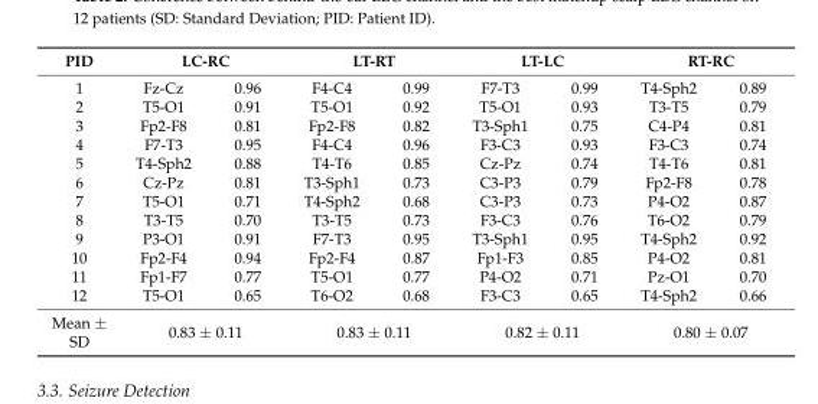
<table><thead><tr><td rowspan="2">PID 1</td><td colspan="2">LC-RC</td><td colspan="2">LT-RT</td><td colspan="2">LT-LC</td><td colspan="2">RT-RC</td></tr><tr><td>Fz-Cz</td><td>0.96</td><td>F4-C4</td><td>0.99</td><td>F7-T3</td><td>0.99</td><td>T4-Sph2</td><td>0.89</td></tr></thead><tbody><tr><td>2</td><td>T5-O1</td><td>0.91</td><td>T5-O1</td><td>0.92</td><td>T5-O1</td><td>0.93</td><td>T3-T5</td><td>0.79</td></tr><tr><td>3</td><td>Fp2-F8</td><td>0.81</td><td>Fp2-F8</td><td>0.82</td><td>T3-Sph1</td><td>0.75</td><td>C4-P4</td><td>0.81</td></tr><tr><td>4</td><td>F7-T3</td><td>0.95</td><td>F4-C4</td><td>0.96</td><td>F3-C3</td><td>0.93</td><td>F3-C3</td><td>0.74</td></tr><tr><td>5</td><td>T4-Sph2</td><td>0.88</td><td>T4-T6</td><td>0.85</td><td>Cz-Pz</td><td>0.74</td><td>T4-T6</td><td>0.81</td></tr><tr><td>6</td><td>Cz-Pz</td><td>0.81</td><td>T3-Sph1</td><td>0.73</td><td>C3-P3</td><td>0.79</td><td>Fp2-F8</td><td>0.78</td></tr><tr><td>7</td><td>T5-O1</td><td>0.71</td><td>T4-Sph2</td><td>0.68</td><td>C3-P3</td><td>0.73</td><td>P4-O2</td><td>0.87</td></tr><tr><td>8</td><td>T3-T5</td><td>0.70</td><td>T3-T5</td><td>0.73</td><td>F3-C3</td><td>0.76</td><td>T6-O2</td><td>0.79</td></tr><tr><td>9</td><td>P3-O1</td><td>0.91</td><td>F7-T3</td><td>0.95</td><td>T3-Sph1</td><td>0.95</td><td>T4-Sph2</td><td>0.92</td></tr><tr><td>10</td><td>Fp2-F4</td><td>0.94</td><td>Fp2-F4</td><td>0.87</td><td>Fp1-F3</td><td>0.85</td><td>P4-O2</td><td>0.81</td></tr><tr><td>11</td><td>Fp1-F7</td><td>0.77</td><td>T5-O1</td><td>0.77</td><td>P4-O2</td><td>0.71</td><td>Pz-O1</td><td>0.70</td></tr><tr><td>12</td><td>T5-O1</td><td>0.65</td><td>T6-O2</td><td>0.68</td><td>F3-C3</td><td>0.65</td><td>T4-Sph2</td><td>0.66</td></tr><tr><td>Mean ± SD</td><td colspan="2">0.83 ± 0.11</td><td colspan="2">0.83 ± 0.11</td><td colspan="2">0.82 ± 0.11</td><td colspan="2">0.80 ± 0.07</td></tr></tbody></table>